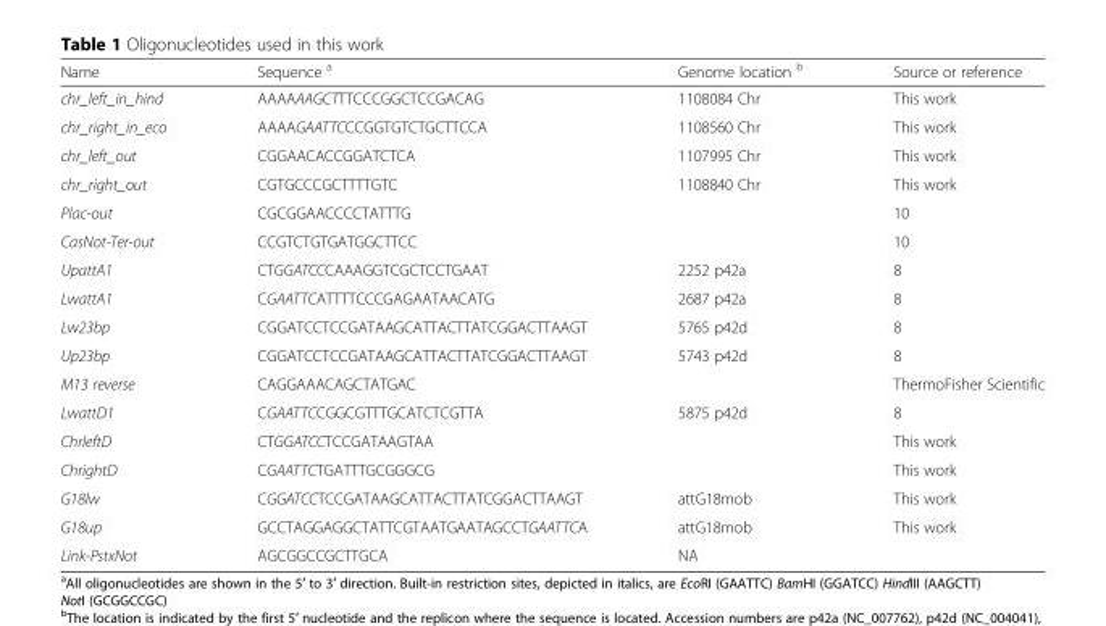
<table><thead><tr><td>Name</td><td>Sequence <sup>a</sup></td><td>Genome location <sup>b</sup></td><td>Source or reference</td></tr></thead><tbody><tr><td>chr_left_in_hind</td><td>AAAAAAGCTTTCCCGGCTCCGACAG</td><td>1108084 Chr</td><td>This work</td></tr><tr><td>chr_right_in_eco</td><td>AAAAGAATTCCCGGTGTCTGCTTCCA</td><td>1108560 Chr</td><td>This work</td></tr><tr><td>chr_left_out</td><td>CGGAACACCGGATCTCA</td><td>1107995 Chr</td><td>This work</td></tr><tr><td>chr_right_out</td><td>CGTGCCCGCTTTTGTC</td><td>1108840 Chr</td><td>This work</td></tr><tr><td>Plac-out</td><td>CGCGGAACCCCTATTTG</td><td></td><td>10</td></tr><tr><td>CasNot-Ter-out</td><td>CCGTCTGTGATGGCTTCC</td><td></td><td>10</td></tr><tr><td>UpattA1</td><td>CTGGATCCCAAAGGTCGCTCCTGAAT</td><td>2252 p42a</td><td>8</td></tr><tr><td>LwattA1</td><td>CGAATTCATTTTCCCGAGAATAACATG</td><td>2687 p42a</td><td>8</td></tr><tr><td>Lw23bp</td><td>CGGATCCTCCGATAAGCATTACTTATCGGACTTAAGT</td><td>5765 p42d</td><td>8</td></tr><tr><td>Up23bp</td><td>CGGATCCTCCGATAAGCATTACTTATCGGACTTAAGT</td><td>5743 p42d</td><td>8</td></tr><tr><td>M13 reverse</td><td>CAGGAAACAGCTATGAC</td><td></td><td>ThermoFisher Scientific</td></tr><tr><td>LwattD1</td><td>CGAATTCCGGCGTTTGCATCTCGTTA</td><td>5875 p42d</td><td>8</td></tr><tr><td>ChrleftD</td><td>CTGGATCCTCCGATAAGTAA</td><td></td><td>This work</td></tr><tr><td>ChrightD</td><td>CGAATTCTGATTTGCGGGCG</td><td></td><td>This work</td></tr><tr><td>G18lw</td><td>CGGATCCTCCGATAAGCATTACTTATCGGACTTAAGT</td><td>attG18mob</td><td>This work</td></tr><tr><td>G18up</td><td>GCCTAGGAGGCTATTCGTAATGAATAGCCTGAATTCA</td><td>attG18mob</td><td>This work</td></tr><tr><td>Link-PstxNot</td><td>AGCGGCCGCTTGCA</td><td>NA</td><td></td></tr></tbody></table>